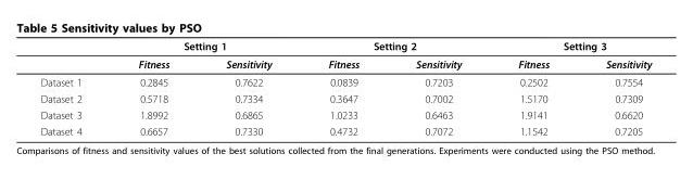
<table><thead><tr><td rowspan="2"></td><td colspan="2">Setting 1</td><td colspan="2">Setting 2</td><td colspan="2">Setting 3</td></tr><tr><td>Fitness</td><td>Sensitivity</td><td>Fitness</td><td>Sensitivity</td><td>Fitness</td><td>Sensitivity</td></tr></thead><tbody><tr><td>Dataset 1</td><td>0.2845</td><td>0.7622</td><td>0.0839</td><td>0.7203</td><td>0.2502</td><td>0.7554</td></tr><tr><td>Dataset 2</td><td>0.5718</td><td>0.7334</td><td>0.3647</td><td>0.7002</td><td>1.5170</td><td>0.7309</td></tr><tr><td>Dataset 3</td><td>1.8992</td><td>0.6865</td><td>1.0233</td><td>0.6463</td><td>1.9141</td><td>0.6620</td></tr><tr><td>Dataset 4</td><td>0.6657</td><td>0.7330</td><td>0.4732</td><td>0.7072</td><td>1.1542</td><td>0.7205</td></tr></tbody></table>